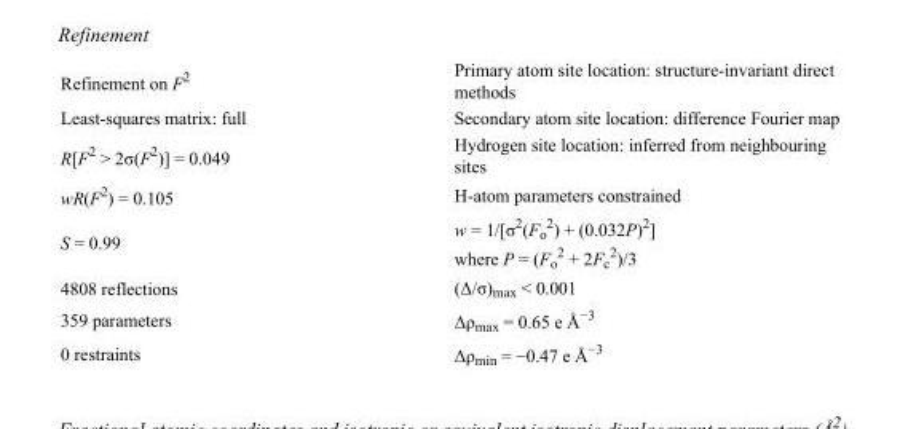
<table><tbody><tr><td>Refinement on F<sup>2</sup></td><td>Primary atom site location: structure-invariant direct methods</td></tr><tr><td>Least-squares matrix: full</td><td>Secondary atom site location: difference Fourier map</td></tr><tr><td>R[F<sup>2</sup> &gt; 2σ(F<sup>2</sup>)] = 0.049</td><td>Hydrogen site location: inferred from neighbouring sites</td></tr><tr><td>wR(F<sup>2</sup>) = 0.105</td><td>H-atom parameters constrained</td></tr><tr><td>S = 0.99</td><td>w = 1/[σ<sup>2</sup>(F<sub>o</sub> <sup>2</sup>) + (0.032P)<sup>2</sup>] where P = (F<sub>o</sub> <sup>2</sup> + 2F<sub>c</sub> <sup>2</sup>)/3</td></tr><tr><td>4808 reflections</td><td>(Δ/σ)<sub>max</sub> &lt; 0.001</td></tr><tr><td>359 parameters</td><td>Δρ<sub>max</sub> = 0.65 e Å<sup>−3</sup></td></tr><tr><td>0 restraints</td><td>Δρ<sub>min</sub> = −0.47 e Å<sup>−3</sup></td></tr></tbody></table>